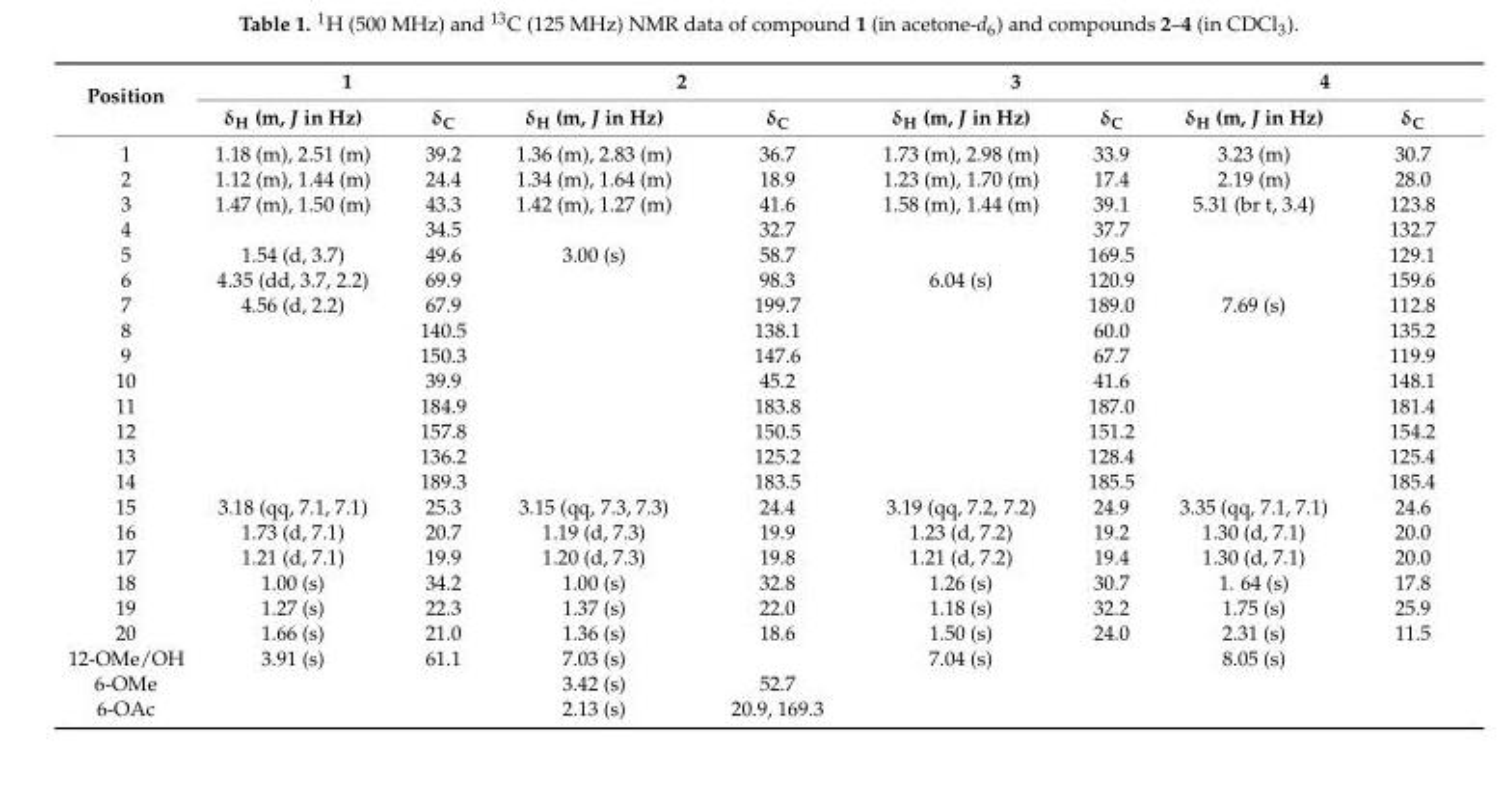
<table><thead><tr><td rowspan="2">Position</td><td colspan="2">1</td><td colspan="2">2</td><td colspan="2">3</td><td colspan="2">4</td></tr><tr><td>δ<sub>H</sub> (m, J in Hz)</td><td>δ<sub>C</sub></td><td>δ<sub>H</sub> (m, J in Hz)</td><td>δ<sub>C</sub></td><td>δ<sub>H</sub> (m, J in Hz)</td><td>δ<sub>C</sub></td><td>δ<sub>H</sub> (m, J in Hz)</td><td>δ<sub>C</sub></td></tr></thead><tbody><tr><td>1</td><td>1.18 (m), 2.51 (m)</td><td>39.2</td><td>1.36 (m), 2.83 (m)</td><td>36.7</td><td>1.73 (m), 2.98 (m)</td><td>33.9</td><td>3.23 (m)</td><td>30.7</td></tr><tr><td>2</td><td>1.12 (m), 1.44 (m)</td><td>24.4</td><td>1.34 (m), 1.64 (m)</td><td>18.9</td><td>1.23 (m), 1.70 (m)</td><td>17.4</td><td>2.19 (m)</td><td>28.0</td></tr><tr><td>3</td><td>1.47 (m), 1.50 (m)</td><td>43.3</td><td>1.42 (m), 1.27 (m)</td><td>41.6</td><td>1.58 (m), 1.44 (m)</td><td>39.1</td><td>5.31 (br t, 3.4)</td><td>123.8</td></tr><tr><td>4</td><td></td><td>34.5</td><td></td><td>32.7</td><td></td><td>37.7</td><td></td><td>132.7</td></tr><tr><td>5</td><td>1.54 (d, 3.7)</td><td>49.6</td><td>3.00 (s)</td><td>58.7</td><td></td><td>169.5</td><td></td><td>129.1</td></tr><tr><td>6</td><td>4.35 (dd, 3.7, 2.2)</td><td>69.9</td><td></td><td>98.3</td><td>6.04 (s)</td><td>120.9</td><td></td><td>159.6</td></tr><tr><td>7</td><td>4.56 (d, 2.2)</td><td>67.9</td><td></td><td>199.7</td><td></td><td>189.0</td><td>7.69 (s)</td><td>112.8</td></tr><tr><td>8</td><td></td><td>140.5</td><td></td><td>138.1</td><td></td><td>60.0</td><td></td><td>135.2</td></tr><tr><td>9</td><td></td><td>150.3</td><td></td><td>147.6</td><td></td><td>67.7</td><td></td><td>119.9</td></tr><tr><td>10</td><td></td><td>39.9</td><td></td><td>45.2</td><td></td><td>41.6</td><td></td><td>148.1</td></tr><tr><td>11</td><td></td><td>184.9</td><td></td><td>183.8</td><td></td><td>187.0</td><td></td><td>181.4</td></tr><tr><td>12</td><td></td><td>157.8</td><td></td><td>150.5</td><td></td><td>151.2</td><td></td><td>154.2</td></tr><tr><td>13</td><td></td><td>136.2</td><td></td><td>125.2</td><td></td><td>128.4</td><td></td><td>125.4</td></tr><tr><td>14</td><td></td><td>189.3</td><td></td><td>183.5</td><td></td><td>185.5</td><td></td><td>185.4</td></tr><tr><td>15</td><td>3.18 (qq, 7.1, 7.1)</td><td>25.3</td><td>3.15 (qq, 7.3, 7.3)</td><td>24.4</td><td>3.19 (qq, 7.2, 7.2)</td><td>24.9</td><td>3.35 (qq, 7.1, 7.1)</td><td>24.6</td></tr><tr><td>16</td><td>1.73 (d, 7.1)</td><td>20.7</td><td>1.19 (d, 7.3)</td><td>19.9</td><td>1.23 (d, 7.2)</td><td>19.2</td><td>1.30 (d, 7.1)</td><td>20.0</td></tr><tr><td>17</td><td>1.21 (d, 7.1)</td><td>19.9</td><td>1.20 (d, 7.3)</td><td>19.8</td><td>1.21 (d, 7.2)</td><td>19.4</td><td>1.30 (d, 7.1)</td><td>20.0</td></tr><tr><td>18</td><td>1.00 (s)</td><td>34.2</td><td>1.00 (s)</td><td>32.8</td><td>1.26 (s)</td><td>30.7</td><td>1. 64 (s)</td><td>17.8</td></tr><tr><td>19</td><td>1.27 (s)</td><td>22.3</td><td>1.37 (s)</td><td>22.0</td><td>1.18 (s)</td><td>32.2</td><td>1.75 (s)</td><td>25.9</td></tr><tr><td>20</td><td>1.66 (s)</td><td>21.0</td><td>1.36 (s)</td><td>18.6</td><td>1.50 (s)</td><td>24.0</td><td>2.31 (s)</td><td>11.5</td></tr><tr><td>12-OMe/OH</td><td>3.91 (s)</td><td>61.1</td><td>7.03 (s)</td><td></td><td>7.04 (s)</td><td></td><td>8.05 (s)</td><td></td></tr><tr><td>6-OMe</td><td></td><td></td><td>3.42 (s)</td><td>52.7</td><td></td><td></td><td></td><td></td></tr><tr><td>6-OAc</td><td></td><td></td><td>2.13 (s)</td><td>20.9, 169.3</td><td></td><td></td><td></td><td></td></tr></tbody></table>